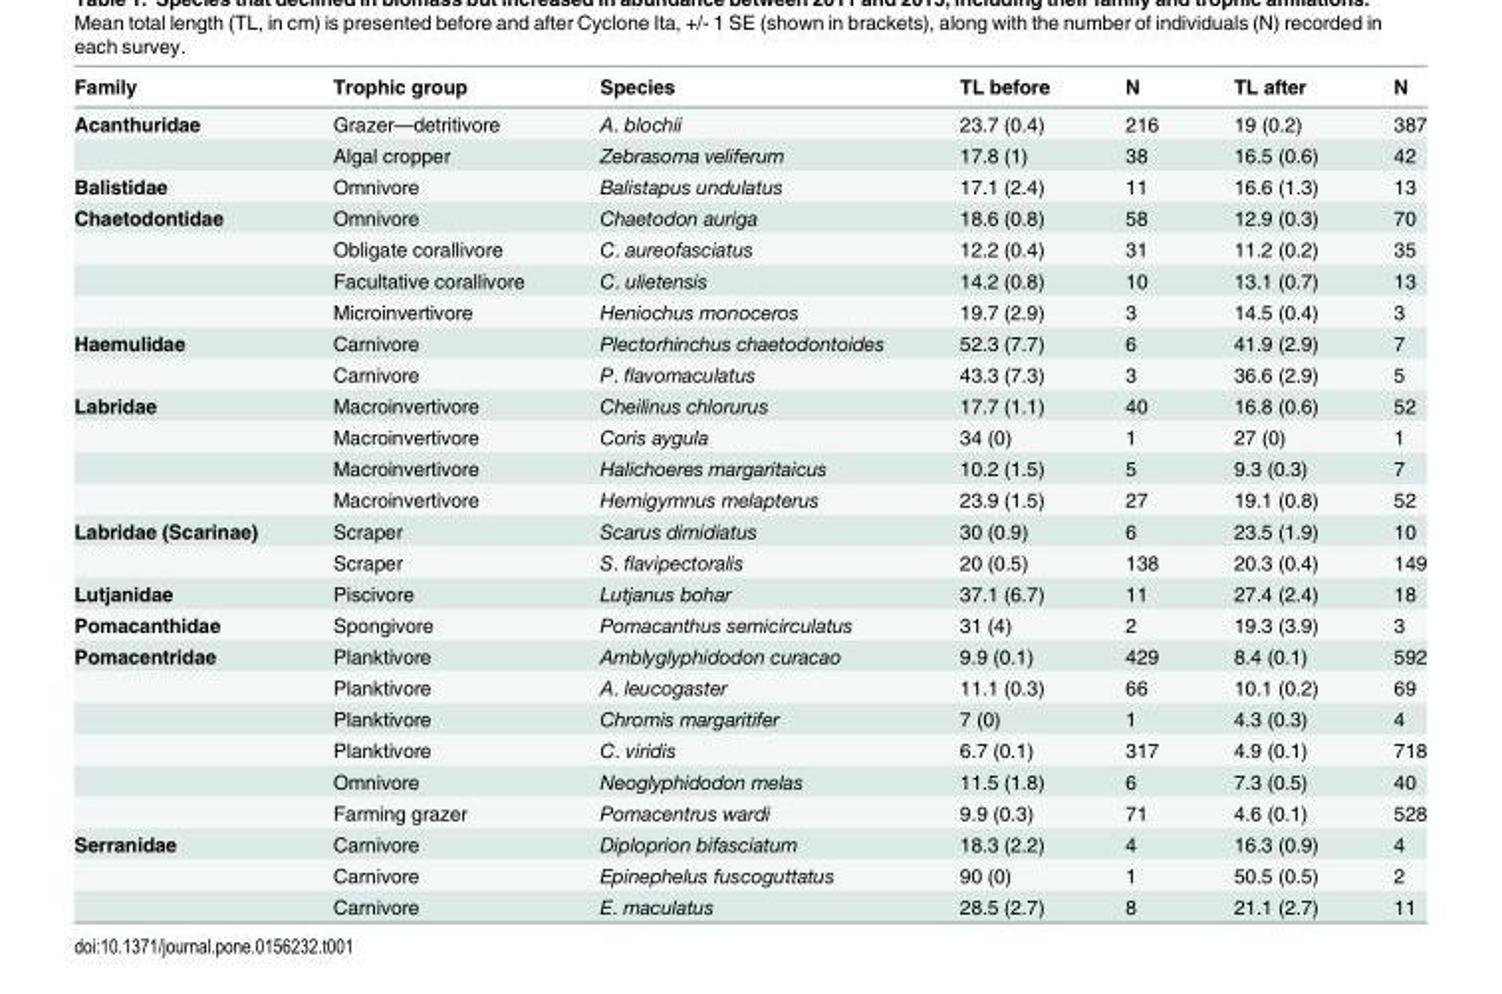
<table><thead><tr><td>Family</td><td>Trophic group</td><td>Species</td><td>TL before</td><td>N</td><td>TL after</td><td>N</td></tr></thead><tbody><tr><td rowspan="2">Acanthuridae</td><td>Grazer—detritivore</td><td>A. blochii</td><td>23.7 (0.4)</td><td>216</td><td>19 (0.2)</td><td>387</td></tr><tr><td>Algal cropper</td><td>Zebrasoma veliferum</td><td>17.8 (1)</td><td>38</td><td>16.5 (0.6)</td><td>42</td></tr><tr><td>Balistidae</td><td>Omnivore</td><td>Balistapus undulatus</td><td>17.1 (2.4)</td><td>11</td><td>16.6 (1.3)</td><td>13</td></tr><tr><td rowspan="4">Chaetodontidae</td><td>Omnivore</td><td>Chaetodon auriga</td><td>18.6 (0.8)</td><td>58</td><td>12.9 (0.3)</td><td>70</td></tr><tr><td>Obligate corallivore</td><td>C. aureofasciatus</td><td>12.2 (0.4)</td><td>31</td><td>11.2 (0.2)</td><td>35</td></tr><tr><td>Facultative corallivore</td><td>C. ulietensis</td><td>14.2 (0.8)</td><td>10</td><td>13.1 (0.7)</td><td>13</td></tr><tr><td>Microinvertivore</td><td>Heniochus monoceros</td><td>19.7 (2.9)</td><td>3</td><td>14.5 (0.4)</td><td>3</td></tr><tr><td rowspan="2">Haemulidae</td><td>Carnivore</td><td>Plectorhinchus chaetodontoides</td><td>52.3 (7.7)</td><td>6</td><td>41.9 (2.9)</td><td>7</td></tr><tr><td>Carnivore</td><td>P. flavomaculatus</td><td>43.3 (7.3)</td><td>3</td><td>36.6 (2.9)</td><td>5</td></tr><tr><td rowspan="4">Labridae</td><td>Macroinvertivore</td><td>Cheilinus chlorurus</td><td>17.7 (1.1)</td><td>40</td><td>16.8 (0.6)</td><td>52</td></tr><tr><td>Macroinvertivore</td><td>Coris aygula</td><td>34 (0)</td><td>1</td><td>27 (0)</td><td>1</td></tr><tr><td>Macroinvertivore</td><td>Halichoeres margaritaicus</td><td>10.2 (1.5)</td><td>5</td><td>9.3 (0.3)</td><td>7</td></tr><tr><td>Macroinvertivore</td><td>Hemigymnus melapterus</td><td>23.9 (1.5)</td><td>27</td><td>19.1 (0.8)</td><td>52</td></tr><tr><td rowspan="2">Labridae (Scarinae)</td><td>Scraper</td><td>Scarus dimidiatus</td><td>30 (0.9)</td><td>6</td><td>23.5 (1.9)</td><td>10</td></tr><tr><td>Scraper</td><td>S. flavipectoralis</td><td>20 (0.5)</td><td>138</td><td>20.3 (0.4)</td><td>149</td></tr><tr><td>Lutjanidae</td><td>Piscivore</td><td>Lutjanus bohar</td><td>37.1 (6.7)</td><td>11</td><td>27.4 (2.4)</td><td>18</td></tr><tr><td>Pomacanthidae</td><td>Spongivore</td><td>Pomacanthus semicirculatus</td><td>31 (4)</td><td>2</td><td>19.3 (3.9)</td><td>3</td></tr><tr><td rowspan="6">Pomacentridae</td><td>Planktivore</td><td>Amblyglyphidodon curacao</td><td>9.9 (0.1)</td><td>429</td><td>8.4 (0.1)</td><td>592</td></tr><tr><td>Planktivore</td><td>A. leucogaster</td><td>11.1 (0.3)</td><td>66</td><td>10.1 (0.2)</td><td>69</td></tr><tr><td>Planktivore</td><td>Chromis margaritifer</td><td>7 (0)</td><td>1</td><td>4.3 (0.3)</td><td>4</td></tr><tr><td>Planktivore</td><td>C. viridis</td><td>6.7 (0.1)</td><td>317</td><td>4.9 (0.1)</td><td>718</td></tr><tr><td>Omnivore</td><td>Neoglyphidodon melas</td><td>11.5 (1.8)</td><td>6</td><td>7.3 (0.5)</td><td>40</td></tr><tr><td>Farming grazer</td><td>Pomacentrus wardi</td><td>9.9 (0.3)</td><td>71</td><td>4.6 (0.1)</td><td>528</td></tr><tr><td rowspan="3">Serranidae</td><td>Carnivore</td><td>Diploprion bifasciatum</td><td>18.3 (2.2)</td><td>4</td><td>16.3 (0.9)</td><td>4</td></tr><tr><td>Carnivore</td><td>Epinephelus fuscoguttatus</td><td>90 (0)</td><td>1</td><td>50.5 (0.5)</td><td>2</td></tr><tr><td>Carnivore</td><td>E. maculatus</td><td>28.5 (2.7)</td><td>8</td><td>21.1 (2.7)</td><td>11</td></tr></tbody></table>